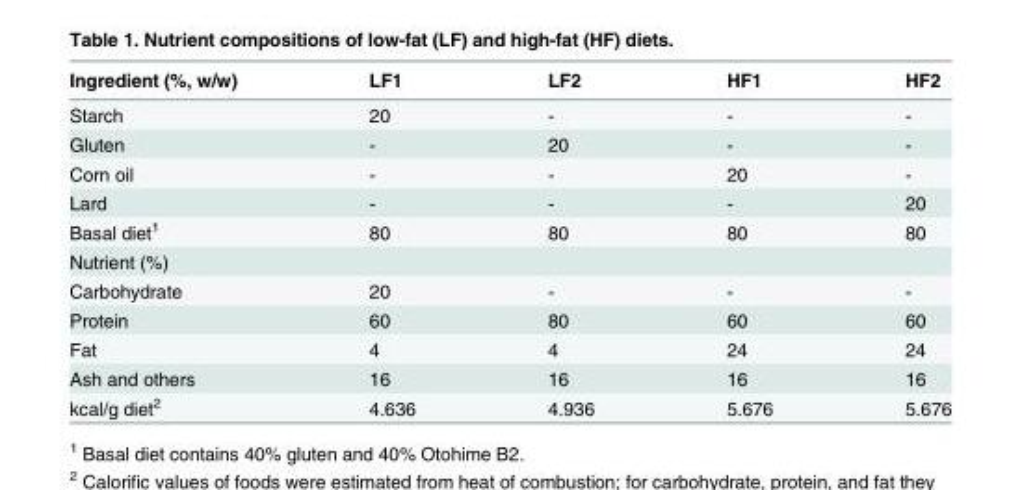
<table><thead><tr><td>Ingredient (%, w/w)</td><td>LF1</td><td>LF2</td><td>HF1</td><td>HF2</td></tr></thead><tbody><tr><td>Starch</td><td>20</td><td>-</td><td>-</td><td>-</td></tr><tr><td>Gluten</td><td>-</td><td>20</td><td>-</td><td>-</td></tr><tr><td>Corn oil</td><td>-</td><td>-</td><td>20</td><td>-</td></tr><tr><td>Lard</td><td>-</td><td>-</td><td>-</td><td>20</td></tr><tr><td>Basal diet<sup>1</sup></td><td>80</td><td>80</td><td>80</td><td>80</td></tr><tr><td colspan="5">Nutrient (%)</td></tr><tr><td>Carbohydrate</td><td>20</td><td>-</td><td>-</td><td>-</td></tr><tr><td>Protein</td><td>60</td><td>80</td><td>60</td><td>60</td></tr><tr><td>Fat</td><td>4</td><td>4</td><td>24</td><td>24</td></tr><tr><td>Ash and others</td><td>16</td><td>16</td><td>16</td><td>16</td></tr><tr><td>kcal/g diet<sup>2</sup></td><td>4.636</td><td>4.936</td><td>5.676</td><td>5.676</td></tr></tbody></table>